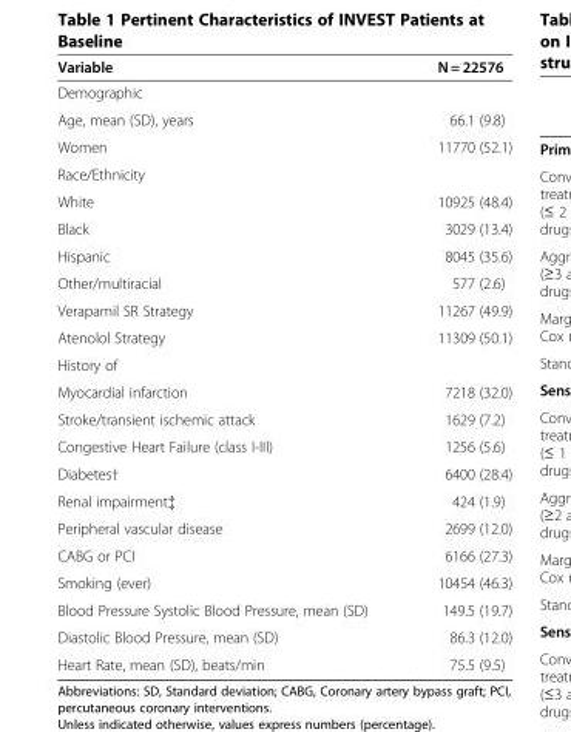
<table><thead><tr><td>Variable</td><td>N = 22576</td></tr></thead><tbody><tr><td colspan="2">Demographic</td></tr><tr><td>Age, mean (SD), years</td><td>66.1 (9.8)</td></tr><tr><td>Women</td><td>11770 (52.1)</td></tr><tr><td colspan="2">Race/Ethnicity</td></tr><tr><td>White</td><td>10925 (48.4)</td></tr><tr><td>Black</td><td>3029 (13.4)</td></tr><tr><td>Hispanic</td><td>8045 (35.6)</td></tr><tr><td>Other/multiracial</td><td>577 (2.6)</td></tr><tr><td>Verapamil SR Strategy</td><td>11267 (49.9)</td></tr><tr><td>Atenolol Strategy</td><td>11309 (50.1)</td></tr><tr><td colspan="2">History of</td></tr><tr><td>Myocardial infarction</td><td>7218 (32.0)</td></tr><tr><td>Stroke/transient ischemic attack</td><td>1629 (7.2)</td></tr><tr><td>Congestive Heart Failure (class I-III)</td><td>1256 (5.6)</td></tr><tr><td>Diabetes†</td><td>6400 (28.4)</td></tr><tr><td>Renal impairment‡</td><td>424 (1.9)</td></tr><tr><td>Peripheral vascular disease</td><td>2699 (12.0)</td></tr><tr><td>CABG or PCI</td><td>6166 (27.3)</td></tr><tr><td>Smoking (ever)</td><td>10454 (46.3)</td></tr><tr><td>Blood Pressure Systolic Blood Pressure, mean (SD)</td><td>149.5 (19.7)</td></tr><tr><td>Diastolic Blood Pressure, mean (SD)</td><td>86.3 (12.0)</td></tr><tr><td>Heart Rate, mean (SD), beats/min</td><td>75.5 (9.5)</td></tr></tbody></table>